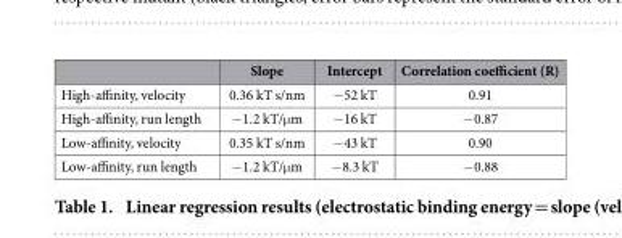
<table><thead><tr><td></td><td>Slope</td><td>Intercept</td><td>Correlation coefficient (R)</td></tr></thead><tbody><tr><td>High-affinity, velocity</td><td>0.36 kT s/nm</td><td>− 52 kT</td><td>0.91</td></tr><tr><td>High-affinity, run length</td><td>− 1.2 kT/μ m</td><td>− 16 kT</td><td>− 0.87</td></tr><tr><td>Low-affinity, velocity</td><td>0.35 kT s/nm</td><td>− 43 kT</td><td>0.90</td></tr><tr><td>Low-affinity, run length</td><td>− 1.2 kT/μ m</td><td>− 8.3 kT</td><td>− 0.88</td></tr></tbody></table>